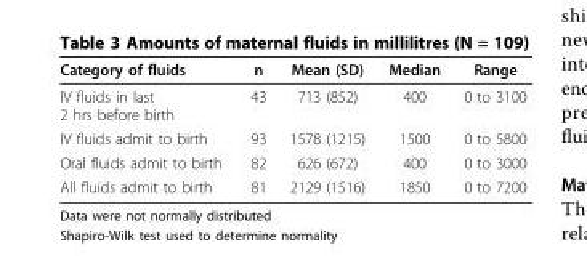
<table><thead><tr><td>Category of fluids</td><td>n</td><td>Mean (SD)</td><td>Median</td><td>Range</td></tr></thead><tbody><tr><td>IV fluids in last 2 hrs before birth</td><td>43</td><td>713 (852)</td><td>400</td><td>0 to 3100</td></tr><tr><td>IV fluids admit to birth</td><td>93</td><td>1578 (1215)</td><td>1500</td><td>0 to 5800</td></tr><tr><td>Oral fluids admit to birth</td><td>82</td><td>626 (672)</td><td>400</td><td>0 to 3000</td></tr><tr><td>All fluids admit to birth</td><td>81</td><td>2129 (1516)</td><td>1850</td><td>0 to 7200</td></tr></tbody></table>